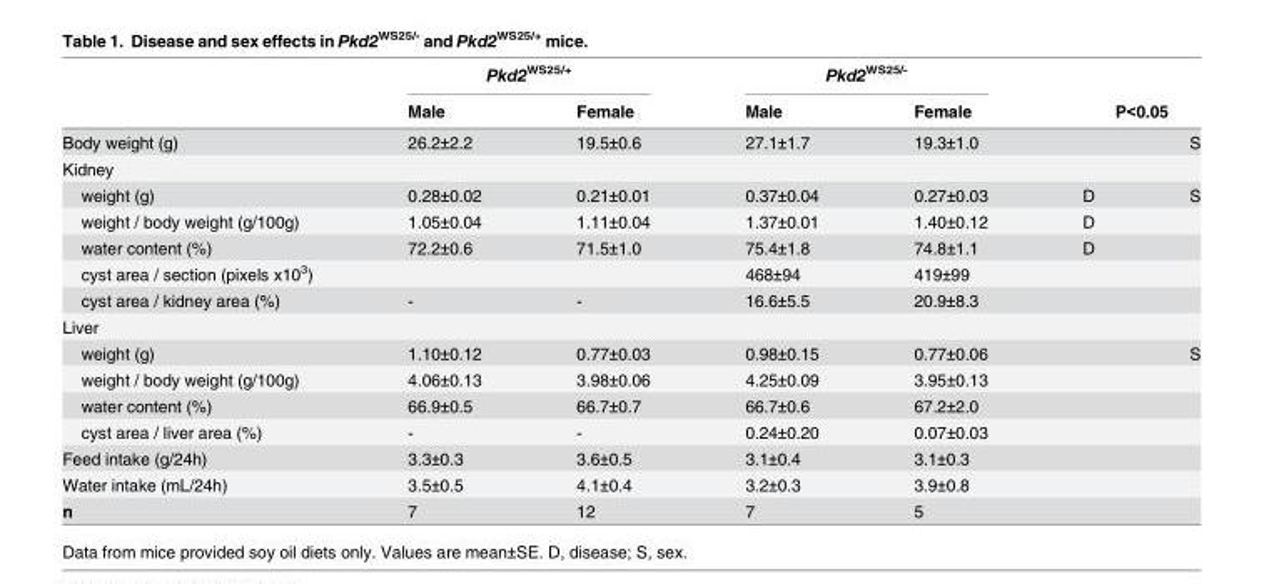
<table><thead><tr><td rowspan="2"></td><td colspan="2">Pkd2<sup>WS25/+</sup></td><td colspan="2">Pkd2<sup>WS25/-</sup></td><td></td><td></td></tr><tr><td>Male</td><td>Female</td><td>Male</td><td>Female</td><td colspan="2">P&lt;0.05</td></tr></thead><tbody><tr><td>Body weight (g)</td><td>26.2±2.2</td><td>19.5±0.6</td><td>27.1±1.7</td><td>19.3±1.0</td><td></td><td>S</td></tr><tr><td colspan="7">Kidney</td></tr><tr><td>weight (g)</td><td>0.28±0.02</td><td>0.21±0.01</td><td>0.37±0.04</td><td>0.27±0.03</td><td>D</td><td>S</td></tr><tr><td>weight / body weight (g/100g)</td><td>1.05±0.04</td><td>1.11±0.04</td><td>1.37±0.01</td><td>1.40±0.12</td><td>D</td><td></td></tr><tr><td>water content (%)</td><td>72.2±0.6</td><td>71.5±1.0</td><td>75.4±1.8</td><td>74.8±1.1</td><td>D</td><td></td></tr><tr><td>cyst area / section (pixels x10<sup>3</sup>)</td><td></td><td></td><td>468±94</td><td>419±99</td><td></td><td></td></tr><tr><td>cyst area / kidney area (%)</td><td>-</td><td>-</td><td>16.6±5.5</td><td>20.9±8.3</td><td></td><td></td></tr><tr><td colspan="7">Liver</td></tr><tr><td>weight (g)</td><td>1.10±0.12</td><td>0.77±0.03</td><td>0.98±0.15</td><td>0.77±0.06</td><td></td><td>S</td></tr><tr><td>weight / body weight (g/100g)</td><td>4.06±0.13</td><td>3.98±0.06</td><td>4.25±0.09</td><td>3.95±0.13</td><td></td><td></td></tr><tr><td>water content (%)</td><td>66.9±0.5</td><td>66.7±0.7</td><td>66.7±0.6</td><td>67.2±2.0</td><td></td><td></td></tr><tr><td>cyst area / liver area (%)</td><td>-</td><td>-</td><td>0.24±0.20</td><td>0.07±0.03</td><td></td><td></td></tr><tr><td>Feed intake (g/24h)</td><td>3.3±0.3</td><td>3.6±0.5</td><td>3.1±0.4</td><td>3.1±0.3</td><td></td><td></td></tr><tr><td>Water intake (mL/24h)</td><td>3.5±0.5</td><td>4.1±0.4</td><td>3.2±0.3</td><td>3.9±0.8</td><td></td><td></td></tr><tr><td>n</td><td>7</td><td>12</td><td>7</td><td>5</td><td></td><td></td></tr></tbody></table>